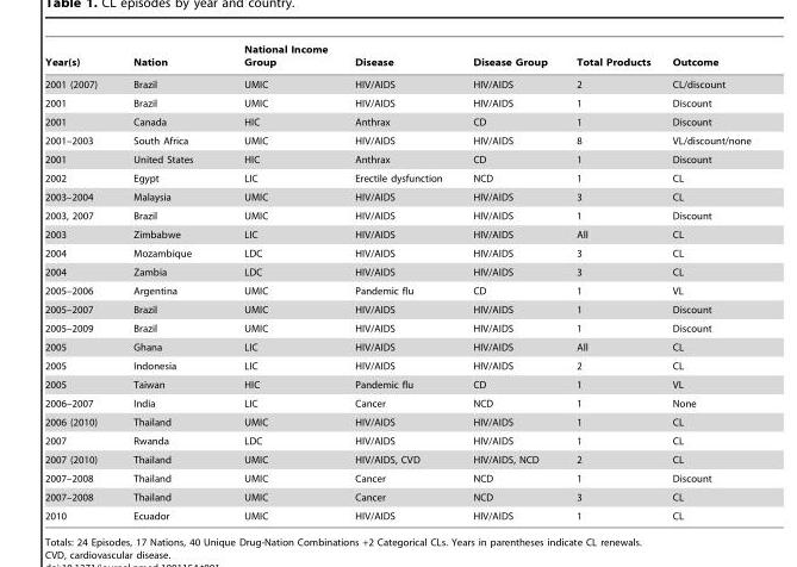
<table><thead><tr><td>Year(s)</td><td>Nation</td><td>National Income Group</td><td>Disease</td><td>Disease Group</td><td>Total Products</td><td>Outcome</td></tr></thead><tbody><tr><td>2001 (2007)</td><td>Brazil</td><td>UMIC</td><td>HIV/AIDS</td><td>HIV/AIDS</td><td>2</td><td>CL/discount</td></tr><tr><td>2001</td><td>Brazil</td><td>UMIC</td><td>HIV/AIDS</td><td>HIV/AIDS</td><td>1</td><td>Discount</td></tr><tr><td>2001</td><td>Canada</td><td>HIC</td><td>Anthrax</td><td>CD</td><td>1</td><td>Discount</td></tr><tr><td>2001–2003</td><td>South Africa</td><td>UMIC</td><td>HIV/AIDS</td><td>HIV/AIDS</td><td>8</td><td>VL/discount/none</td></tr><tr><td>2001</td><td>United States</td><td>HIC</td><td>Anthrax</td><td>CD</td><td>1</td><td>Discount</td></tr><tr><td>2002</td><td>Egypt</td><td>LIC</td><td>Erectile dysfunction</td><td>NCD</td><td>1</td><td>CL</td></tr><tr><td>2003–2004</td><td>Malaysia</td><td>UMIC</td><td>HIV/AIDS</td><td>HIV/AIDS</td><td>3</td><td>CL</td></tr><tr><td>2003, 2007</td><td>Brazil</td><td>UMIC</td><td>HIV/AIDS</td><td>HIV/AIDS</td><td>1</td><td>Discount</td></tr><tr><td>2003</td><td>Zimbabwe</td><td>LIC</td><td>HIV/AIDS</td><td>HIV/AIDS</td><td>All</td><td>CL</td></tr><tr><td>2004</td><td>Mozambique</td><td>LDC</td><td>HIV/AIDS</td><td>HIV/AIDS</td><td>3</td><td>CL</td></tr><tr><td>2004</td><td>Zambia</td><td>LDC</td><td>HIV/AIDS</td><td>HIV/AIDS</td><td>3</td><td>CL</td></tr><tr><td>2005–2006</td><td>Argentina</td><td>UMIC</td><td>Pandemic flu</td><td>CD</td><td>1</td><td>VL</td></tr><tr><td>2005–2007</td><td>Brazil</td><td>UMIC</td><td>HIV/AIDS</td><td>HIV/AIDS</td><td>1</td><td>Discount</td></tr><tr><td>2005–2009</td><td>Brazil</td><td>UMIC</td><td>HIV/AIDS</td><td>HIV/AIDS</td><td>1</td><td>Discount</td></tr><tr><td>2005</td><td>Ghana</td><td>LIC</td><td>HIV/AIDS</td><td>HIV/AIDS</td><td>All</td><td>CL</td></tr><tr><td>2005</td><td>Indonesia</td><td>LIC</td><td>HIV/AIDS</td><td>HIV/AIDS</td><td>2</td><td>CL</td></tr><tr><td>2005</td><td>Taiwan</td><td>HIC</td><td>Pandemic flu</td><td>CD</td><td>1</td><td>VL</td></tr><tr><td>2006–2007</td><td>India</td><td>LIC</td><td>Cancer</td><td>NCD</td><td>1</td><td>None</td></tr><tr><td>2006 (2010)</td><td>Thailand</td><td>UMIC</td><td>HIV/AIDS</td><td>HIV/AIDS</td><td>1</td><td>CL</td></tr><tr><td>2007</td><td>Rwanda</td><td>LDC</td><td>HIV/AIDS</td><td>HIV/AIDS</td><td>1</td><td>CL</td></tr><tr><td>2007 (2010)</td><td>Thailand</td><td>UMIC</td><td>HIV/AIDS, CVD</td><td>HIV/AIDS, NCD</td><td>2</td><td>CL</td></tr><tr><td>2007–2008</td><td>Thailand</td><td>UMIC</td><td>Cancer</td><td>NCD</td><td>1</td><td>Discount</td></tr><tr><td>2007–2008</td><td>Thailand</td><td>UMIC</td><td>Cancer</td><td>NCD</td><td>3</td><td>CL</td></tr><tr><td>2010</td><td>Ecuador</td><td>UMIC</td><td>HIV/AIDS</td><td>HIV/AIDS</td><td>1</td><td>CL</td></tr></tbody></table>